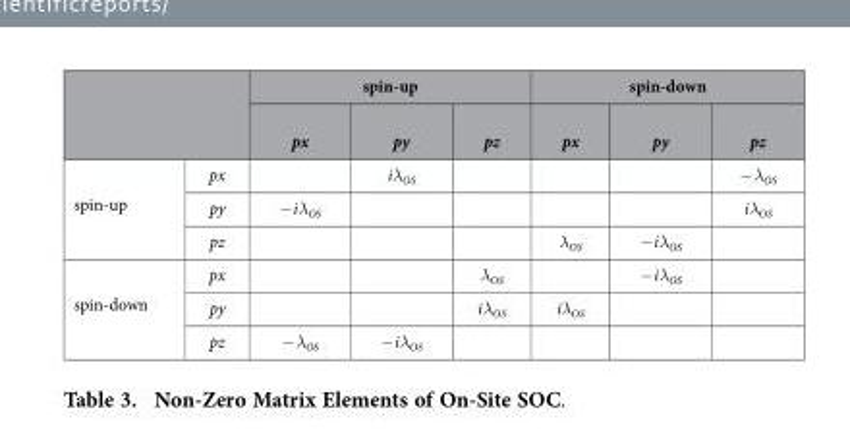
<table><thead><tr><td rowspan="2"></td><td rowspan="2"></td><td colspan="3">spin-up</td><td colspan="3">spin-down</td></tr><tr><td>px</td><td>py</td><td>pz</td><td>px</td><td>py</td><td>pz</td></tr></thead><tbody><tr><td rowspan="3">spin-up</td><td>px</td><td></td><td>iλ<sub>OS</sub></td><td></td><td></td><td></td><td>− λ<sub>OS</sub></td></tr><tr><td>py</td><td>− iλ<sub>OS</sub></td><td></td><td></td><td></td><td></td><td>iλ<sub>OS</sub></td></tr><tr><td>pz</td><td></td><td></td><td></td><td>λ<sub>OS</sub></td><td>− iλ<sub>OS</sub></td><td></td></tr><tr><td rowspan="3">spin-down</td><td>px</td><td></td><td></td><td>λ<sub>OS</sub></td><td></td><td>− iλ<sub>OS</sub></td><td></td></tr><tr><td>py</td><td></td><td></td><td>iλ<sub>OS</sub></td><td>iλ<sub>OS</sub></td><td></td><td></td></tr><tr><td>pz</td><td>− λ<sub>OS</sub></td><td>− iλ<sub>OS</sub></td><td></td><td></td><td></td><td></td></tr></tbody></table>